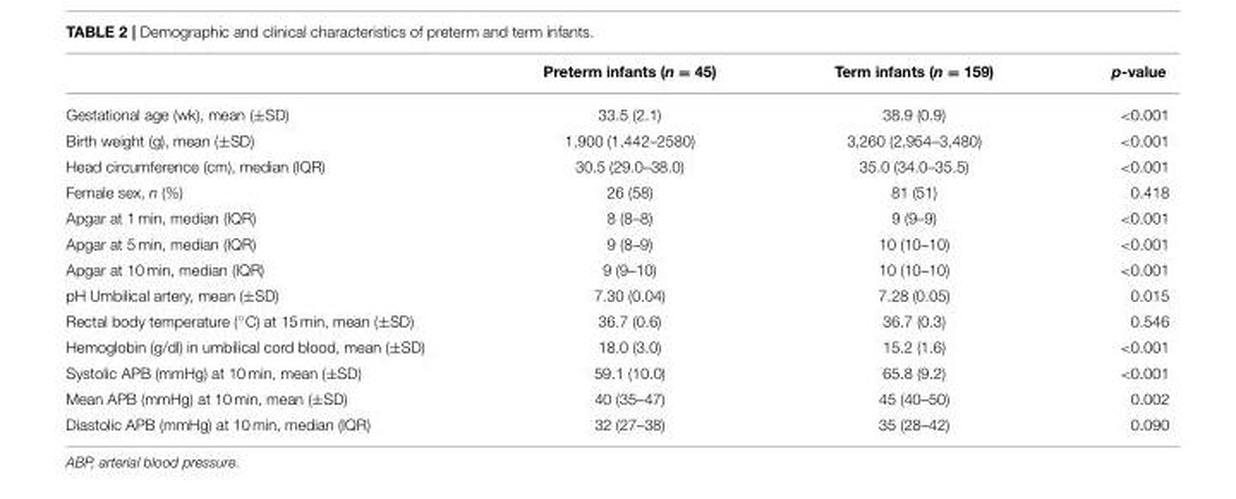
<table><thead><tr><td></td><td>Preterm infants (n = 45)</td><td>Term infants (n = 159)</td><td>p-value</td></tr></thead><tbody><tr><td>Gestational age (wk), mean (±SD)</td><td>33.5 (2.1)</td><td>38.9 (0.9)</td><td>&lt;0.001</td></tr><tr><td>Birth weight (g), mean (±SD)</td><td>1,900 (1,442–2580)</td><td>3,260 (2,954–3,480)</td><td>&lt;0.001</td></tr><tr><td>Head circumference (cm), median (IQR)</td><td>30.5 (29.0–38.0)</td><td>35.0 (34.0–35.5)</td><td>&lt;0.001</td></tr><tr><td>Female sex, n (%)</td><td>26 (58)</td><td>81 (51)</td><td>0.418</td></tr><tr><td>Apgar at 1 min, median (IQR)</td><td>8 (8–8)</td><td>9 (9–9)</td><td>&lt;0.001</td></tr><tr><td>Apgar at 5 min, median (IQR)</td><td>9 (8–9)</td><td>10 (10–10)</td><td>&lt;0.001</td></tr><tr><td>Apgar at 10 min, median (IQR)</td><td>9 (9–10)</td><td>10 (10–10)</td><td>&lt;0.001</td></tr><tr><td>pH Umbilical artery, mean (±SD)</td><td>7.30 (0.04)</td><td>7.28 (0.05)</td><td>0.015</td></tr><tr><td>Rectal body temperature (◦C) at 15 min, mean (±SD)</td><td>36.7 (0.6)</td><td>36.7 (0.3)</td><td>0.546</td></tr><tr><td>Hemoglobin (g/dl) in umbilical cord blood, mean (±SD)</td><td>18.0 (3.0)</td><td>15.2 (1.6)</td><td>&lt;0.001</td></tr><tr><td>Systolic APB (mmHg) at 10 min, mean (±SD)</td><td>59.1 (10.0)</td><td>65.8 (9.2)</td><td>&lt;0.001</td></tr><tr><td>Mean APB (mmHg) at 10 min, mean (±SD)</td><td>40 (35–47)</td><td>45 (40–50)</td><td>0.002</td></tr><tr><td>Diastolic APB (mmHg) at 10 min, median (IQR)</td><td>32 (27–38)</td><td>35 (28–42)</td><td>0.090</td></tr></tbody></table>